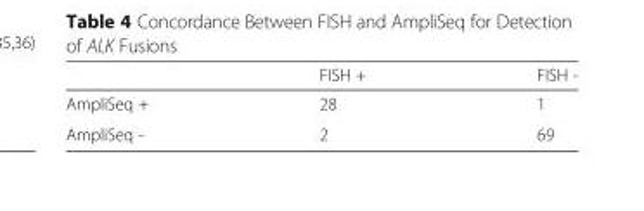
<table><thead><tr><td></td><td>FISH +</td><td>FISH -</td></tr></thead><tbody><tr><td>AmpliSeq +</td><td>28</td><td>1</td></tr><tr><td>AmpliSeq -</td><td>2</td><td>69</td></tr></tbody></table>